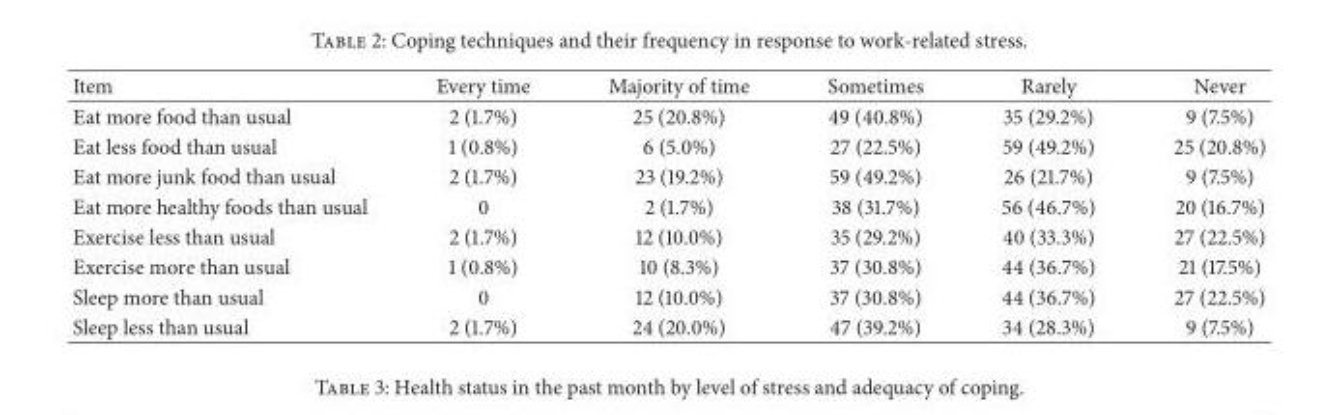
<table><thead><tr><td>Item</td><td>Every time</td><td>Majority of time</td><td>Sometimes</td><td>Rarely</td><td>Never</td></tr></thead><tbody><tr><td>Eat more food than usual</td><td>2 (1.7%)</td><td>25 (20.8%)</td><td>49 (40.8%)</td><td>35 (29.2%)</td><td>9 (7.5%)</td></tr><tr><td>Eat less food than usual</td><td>1 (0.8%)</td><td>6 (5.0%)</td><td>27 (22.5%)</td><td>59 (49.2%)</td><td>25 (20.8%)</td></tr><tr><td>Eat more junk food than usual</td><td>2 (1.7%)</td><td>23 (19.2%)</td><td>59 (49.2%)</td><td>26 (21.7%)</td><td>9 (7.5%)</td></tr><tr><td>Eat more healthy foods than usual</td><td>0</td><td>2 (1.7%)</td><td>38 (31.7%)</td><td>56 (46.7%)</td><td>20 (16.7%)</td></tr><tr><td>Exercise less than usual</td><td>2 (1.7%)</td><td>12 (10.0%)</td><td>35 (29.2%)</td><td>40 (33.3%)</td><td>27 (22.5%)</td></tr><tr><td>Exercise more than usual</td><td>1 (0.8%)</td><td>10 (8.3%)</td><td>37 (30.8%)</td><td>44 (36.7%)</td><td>21 (17.5%)</td></tr><tr><td>Sleep more than usual</td><td>0</td><td>12 (10.0%)</td><td>37 (30.8%)</td><td>44 (36.7%)</td><td>27 (22.5%)</td></tr><tr><td>Sleep less than usual</td><td>2 (1.7%)</td><td>24 (20.0%)</td><td>47 (39.2%)</td><td>34 (28.3%)</td><td>9 (7.5%)</td></tr></tbody></table>